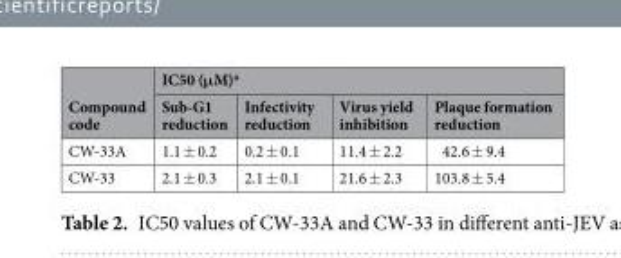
<table><thead><tr><td rowspan="2">Compound code</td><td colspan="4">IC50 (μM)<sup>a</sup></td></tr><tr><td>Sub-G1 reduction</td><td>Infectivity reduction</td><td>Virus yield inhibition</td><td>Plaque formation reduction</td></tr></thead><tbody><tr><td>CW-33A</td><td>1.1 ± 0.2</td><td>0.2 ± 0.1</td><td>11.4 ± 2.2</td><td>42.6 ± 9.4</td></tr><tr><td>CW-33</td><td>2.1 ± 0.3</td><td>2.1 ± 0.1</td><td>21.6 ± 2.3</td><td>103.8 ± 5.4</td></tr></tbody></table>